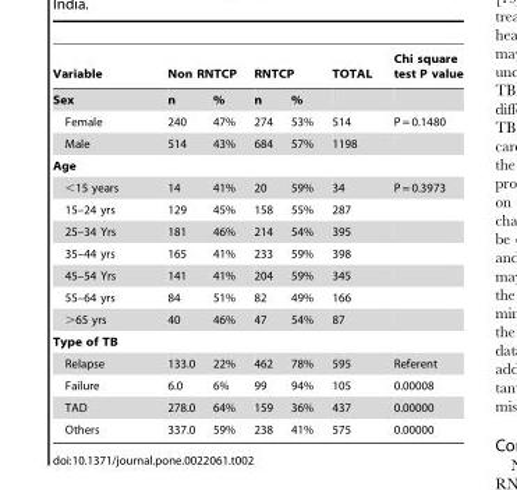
<table><thead><tr><td rowspan="2">Variable Sex</td><td colspan="2">Non RNTCP</td><td colspan="2">RNTCP</td><td rowspan="2">TOTAL</td><td rowspan="2">Chi square test P value</td></tr><tr><td>n</td><td>%</td><td>n</td><td>%</td></tr></thead><tbody><tr><td>Female</td><td>240</td><td>47%</td><td>274</td><td>53%</td><td>514</td><td>P = 0.1480</td></tr><tr><td>Male</td><td>514</td><td>43%</td><td>684</td><td>57%</td><td>1198</td><td></td></tr><tr><td colspan="7">Age</td></tr><tr><td>&lt;15 years</td><td>14</td><td>41%</td><td>20</td><td>59%</td><td>34</td><td>P = 0.3973</td></tr><tr><td>15–24 yrs</td><td>129</td><td>45%</td><td>158</td><td>55%</td><td>287</td><td></td></tr><tr><td>25–34 Yrs</td><td>181</td><td>46%</td><td>214</td><td>54%</td><td>395</td><td></td></tr><tr><td>35–44 yrs</td><td>165</td><td>41%</td><td>233</td><td>59%</td><td>398</td><td></td></tr><tr><td>45–54 Yrs</td><td>141</td><td>41%</td><td>204</td><td>59%</td><td>345</td><td></td></tr><tr><td>55–64 yrs</td><td>84</td><td>51%</td><td>82</td><td>49%</td><td>166</td><td></td></tr><tr><td>&gt;65 yrs</td><td>40</td><td>46%</td><td>47</td><td>54%</td><td>87</td><td></td></tr><tr><td colspan="7">Type of TB</td></tr><tr><td>Relapse</td><td>133.0</td><td>22%</td><td>462</td><td>78%</td><td>595</td><td>Referent</td></tr><tr><td>Failure</td><td>6.0</td><td>6%</td><td>99</td><td>94%</td><td>105</td><td>0.00008</td></tr><tr><td>TAD</td><td>278.0</td><td>64%</td><td>159</td><td>36%</td><td>437</td><td>0.00000</td></tr><tr><td>Others</td><td>337.0</td><td>59%</td><td>238</td><td>41%</td><td>575</td><td>0.00000</td></tr></tbody></table>